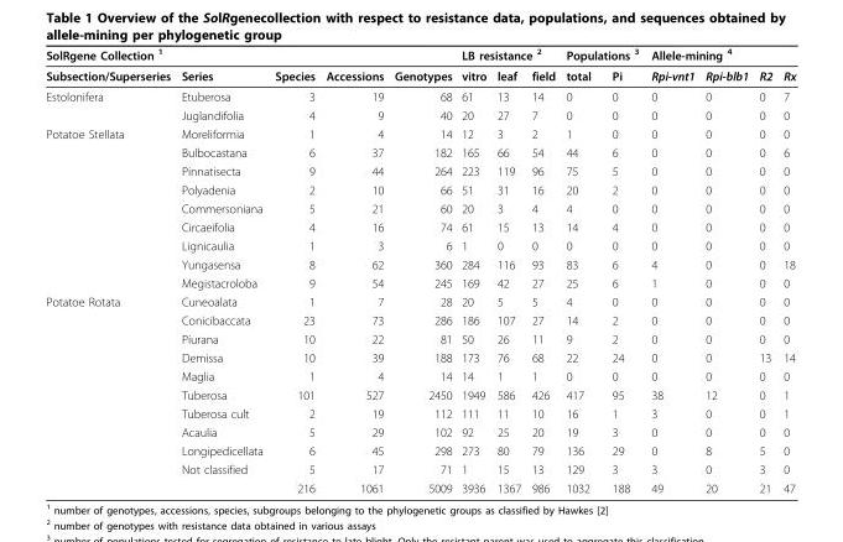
<table><thead><tr><td rowspan="2">SolRgene Collection <sup>1</sup> Subsection/Superseries</td><td rowspan="2">Series</td><td rowspan="2">Species</td><td rowspan="2">Accessions</td><td rowspan="2">Genotypes</td><td colspan="3">LB resistance <sup>2</sup></td><td colspan="2">Populations <sup>3</sup></td><td colspan="3">Allele-mining <sup>4</sup></td><td rowspan="2">Rx</td></tr><tr><td>vitro</td><td>leaf</td><td>field</td><td>total</td><td>Pi</td><td>Rpi-vnt1</td><td>Rpi-blb1</td><td>R2</td></tr></thead><tbody><tr><td rowspan="2">Estolonifera</td><td>Etuberosa</td><td>3</td><td>19</td><td>68</td><td>61</td><td>13</td><td>14</td><td>0</td><td>0</td><td>0</td><td>0</td><td>0</td><td>7</td></tr><tr><td>Juglandifolia</td><td>4</td><td>9</td><td>40</td><td>20</td><td>27</td><td>7</td><td>0</td><td>0</td><td>0</td><td>0</td><td>0</td><td>0</td></tr><tr><td rowspan="9">Potatoe Stellata</td><td>Moreliformia</td><td>1</td><td>4</td><td>14</td><td>12</td><td>3</td><td>2</td><td>1</td><td>0</td><td>0</td><td>0</td><td>0</td><td>0</td></tr><tr><td>Bulbocastana</td><td>6</td><td>37</td><td>182</td><td>165</td><td>66</td><td>54</td><td>44</td><td>6</td><td>0</td><td>0</td><td>0</td><td>6</td></tr><tr><td>Pinnatisecta</td><td>9</td><td>44</td><td>264</td><td>223</td><td>119</td><td>96</td><td>75</td><td>5</td><td>0</td><td>0</td><td>0</td><td>0</td></tr><tr><td>Polyadenia</td><td>2</td><td>10</td><td>66</td><td>51</td><td>31</td><td>16</td><td>20</td><td>2</td><td>0</td><td>0</td><td>0</td><td>0</td></tr><tr><td>Commersoniana</td><td>5</td><td>21</td><td>60</td><td>20</td><td>3</td><td>4</td><td>4</td><td>0</td><td>0</td><td>0</td><td>0</td><td>0</td></tr><tr><td>Circaeifolia</td><td>4</td><td>16</td><td>74</td><td>61</td><td>15</td><td>13</td><td>14</td><td>4</td><td>0</td><td>0</td><td>0</td><td>0</td></tr><tr><td>Lignicaulia</td><td>1</td><td>3</td><td>6</td><td>1</td><td>0</td><td>0</td><td>0</td><td>0</td><td>0</td><td>0</td><td>0</td><td>0</td></tr><tr><td>Yungasensa</td><td>8</td><td>62</td><td>360</td><td>284</td><td>116</td><td>93</td><td>83</td><td>6</td><td>4</td><td>0</td><td>0</td><td>18</td></tr><tr><td>Megistacroloba</td><td>9</td><td>54</td><td>245</td><td>169</td><td>42</td><td>27</td><td>25</td><td>6</td><td>1</td><td>0</td><td>0</td><td>0</td></tr><tr><td rowspan="11">Potatoe Rotata</td><td>Cuneoalata</td><td>1</td><td>7</td><td>28</td><td>20</td><td>5</td><td>5</td><td>4</td><td>0</td><td>0</td><td>0</td><td>0</td><td>0</td></tr><tr><td>Conicibaccata</td><td>23</td><td>73</td><td>286</td><td>186</td><td>107</td><td>27</td><td>14</td><td>2</td><td>0</td><td>0</td><td>0</td><td>0</td></tr><tr><td>Piurana</td><td>10</td><td>22</td><td>81</td><td>50</td><td>26</td><td>11</td><td>9</td><td>2</td><td>0</td><td>0</td><td>0</td><td>0</td></tr><tr><td>Demissa</td><td>10</td><td>39</td><td>188</td><td>173</td><td>76</td><td>68</td><td>22</td><td>24</td><td>0</td><td>0</td><td>13</td><td>14</td></tr><tr><td>Maglia</td><td>1</td><td>4</td><td>14</td><td>14</td><td>1</td><td>1</td><td>0</td><td>0</td><td>0</td><td>0</td><td>0</td><td>0</td></tr><tr><td>Tuberosa</td><td>101</td><td>527</td><td>2450</td><td>1949</td><td>586</td><td>426</td><td>417</td><td>95</td><td>38</td><td>12</td><td>0</td><td>1</td></tr><tr><td>Tuberosa cult</td><td>2</td><td>19</td><td>112</td><td>111</td><td>11</td><td>10</td><td>16</td><td>1</td><td>3</td><td>0</td><td>0</td><td>1</td></tr><tr><td>Acaulia</td><td>5</td><td>29</td><td>102</td><td>92</td><td>25</td><td>20</td><td>19</td><td>3</td><td>0</td><td>0</td><td>0</td><td>0</td></tr><tr><td>Longipedicellata</td><td>6</td><td>45</td><td>298</td><td>273</td><td>80</td><td>79</td><td>136</td><td>29</td><td>0</td><td>8</td><td>5</td><td>0</td></tr><tr><td>Not classified</td><td>5</td><td>17</td><td>71</td><td>1</td><td>15</td><td>13</td><td>129</td><td>3</td><td>3</td><td>0</td><td>3</td><td>0</td></tr><tr><td></td><td>216</td><td>1061</td><td>5009</td><td>3936</td><td>1367</td><td>986</td><td>1032</td><td>188</td><td>49</td><td>20</td><td>21</td><td>47</td></tr></tbody></table>